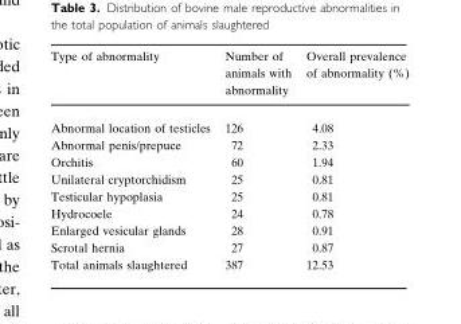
<table><thead><tr><td>Type of abnormality</td><td>Number of animals with abnormality</td><td>Overall prevalence of abnormality (%)</td></tr></thead><tbody><tr><td>Abnormal location of testicles</td><td>126</td><td>4.08</td></tr><tr><td>Abnormal penis/prepuce</td><td>72</td><td>2.33</td></tr><tr><td>Orchitis</td><td>60</td><td>1.94</td></tr><tr><td>Unilateral cryptorchidism</td><td>25</td><td>0.81</td></tr><tr><td>Testicular hypoplasia</td><td>25</td><td>0.81</td></tr><tr><td>Hydrocoele</td><td>24</td><td>0.78</td></tr><tr><td>Enlarged vesicular glands</td><td>28</td><td>0.91</td></tr><tr><td>Scrotal hernia</td><td>27</td><td>0.87</td></tr><tr><td>Total animals slaughtered</td><td>387</td><td>12.53</td></tr></tbody></table>